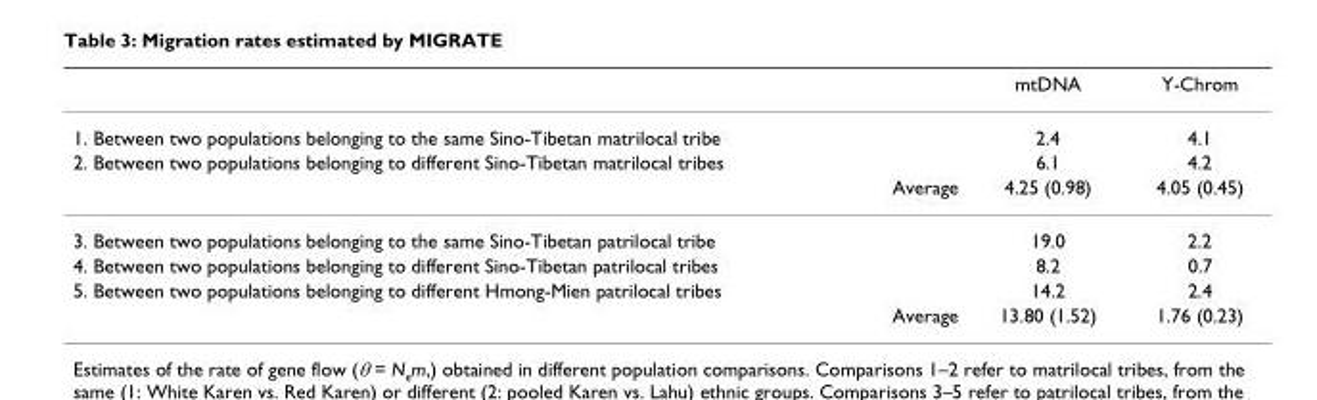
<table><thead><tr><td></td><td>mtDNA</td><td>Y-Chrom</td></tr></thead><tbody><tr><td>1. Between two populations belonging to the same Sino-Tibetan matrilocal tribe</td><td>2.4</td><td>4.1</td></tr><tr><td>2. Between two populations belonging to different Sino-Tibetan matrilocal tribes</td><td>6.1</td><td>4.2</td></tr><tr><td>Average</td><td>4.25 (0.98)</td><td>4.05 (0.45)</td></tr><tr><td>3. Between two populations belonging to the same Sino-Tibetan patrilocal tribe</td><td>19.0</td><td>2.2</td></tr><tr><td>4. Between two populations belonging to different Sino-Tibetan patrilocal tribes</td><td>8.2</td><td>0.7</td></tr><tr><td>5. Between two populations belonging to different Hmong-Mien patrilocal tribes</td><td>14.2</td><td>2.4</td></tr><tr><td>Average</td><td>13.80 (1.52)</td><td>1.76 (0.23)</td></tr></tbody></table>